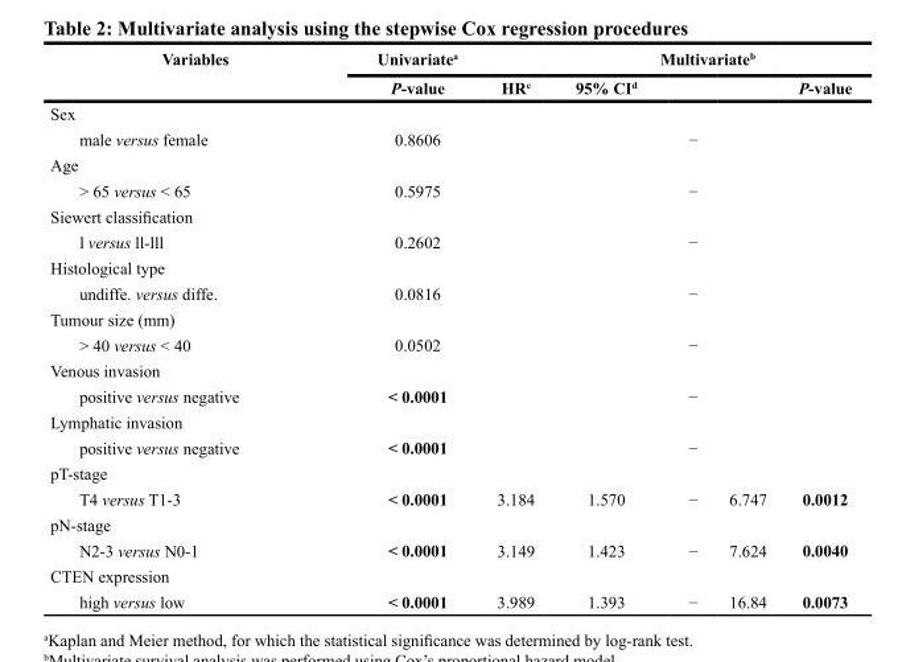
<table><thead><tr><td rowspan="2">Variables</td><td rowspan="2">Univariate<sup>a</sup> P-value</td><td rowspan="2">HR<sup>c</sup></td><td colspan="4">Multivariate<sup>b</sup></td></tr><tr><td>95% CI<sup>d</sup></td><td></td><td></td><td>P-value</td></tr></thead><tbody><tr><td colspan="7">Sex</td></tr><tr><td>male versus female</td><td>0.8606</td><td></td><td></td><td>−</td><td></td><td></td></tr><tr><td colspan="7">Age</td></tr><tr><td>&gt; 65 versus &lt; 65</td><td>0.5975</td><td></td><td></td><td>−</td><td></td><td></td></tr><tr><td colspan="7">Siewert classification</td></tr><tr><td>l versus ll-lll</td><td>0.2602</td><td></td><td></td><td>−</td><td></td><td></td></tr><tr><td colspan="7">Histological type</td></tr><tr><td>undiffe. versus diffe.</td><td>0.0816</td><td></td><td></td><td>−</td><td></td><td></td></tr><tr><td colspan="7">Tumour size (mm)</td></tr><tr><td>&gt; 40 versus &lt; 40</td><td>0.0502</td><td></td><td></td><td>−</td><td></td><td></td></tr><tr><td colspan="7">Venous invasion</td></tr><tr><td>positive versus negative</td><td>&lt; 0.0001</td><td></td><td></td><td>−</td><td></td><td></td></tr><tr><td colspan="7">Lymphatic invasion</td></tr><tr><td>positive versus negative</td><td>&lt; 0.0001</td><td></td><td></td><td>−</td><td></td><td></td></tr><tr><td colspan="7">pT-stage</td></tr><tr><td>T4 versus T1-3</td><td>&lt; 0.0001</td><td>3.184</td><td>1.570</td><td>−</td><td>6.747</td><td>0.0012</td></tr><tr><td colspan="7">pN-stage</td></tr><tr><td>N2-3 versus N0-1</td><td>&lt; 0.0001</td><td>3.149</td><td>1.423</td><td>−</td><td>7.624</td><td>0.0040</td></tr><tr><td colspan="7">CTEN expression</td></tr><tr><td>high versus low</td><td>&lt; 0.0001</td><td>3.989</td><td>1.393</td><td>−</td><td>16.84</td><td>0.0073</td></tr></tbody></table>